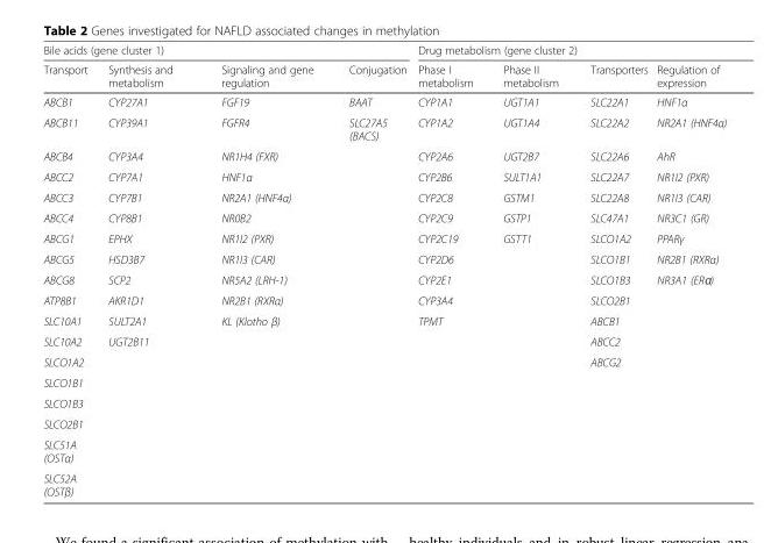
<table><thead><tr><td colspan="4">Bile acids (gene cluster 1)</td><td colspan="4">Drug metabolism (gene cluster 2)</td></tr><tr><td>Transport</td><td>Synthesis and metabolism</td><td>Signaling and gene regulation</td><td>Conjugation</td><td>Phase I metabolism</td><td>Phase II metabolism</td><td>Transporters</td><td>Regulation of expression</td></tr></thead><tbody><tr><td>ABCB1</td><td>CYP27A1</td><td>FGF19</td><td>BAAT</td><td>CYP1A1</td><td>UGT1A1</td><td>SLC22A1</td><td>HNF1α</td></tr><tr><td>ABCB11</td><td>CYP39A1</td><td>FGFR4</td><td>SLC27A5 (BACS)</td><td>CYP1A2</td><td>UGT1A4</td><td>SLC22A2</td><td>NR2A1 (HNF4α)</td></tr><tr><td>ABCB4</td><td>CYP3A4</td><td>NR1H4 (FXR)</td><td></td><td>CYP2A6</td><td>UGT2B7</td><td>SLC22A6</td><td>AhR</td></tr><tr><td>ABCC2</td><td>CYP7A1</td><td>HNF1α</td><td></td><td>CYP2B6</td><td>SULT1A1</td><td>SLC22A7</td><td>NR1I2 (PXR)</td></tr><tr><td>ABCC3</td><td>CYP7B1</td><td>NR2A1 (HNF4α)</td><td></td><td>CYP2C8</td><td>GSTM1</td><td>SLC22A8</td><td>NR1I3 (CAR)</td></tr><tr><td>ABCC4</td><td>CYP8B1</td><td>NR0B2</td><td></td><td>CYP2C9</td><td>GSTP1</td><td>SLC47A1</td><td>NR3C1 (GR)</td></tr><tr><td>ABCG1</td><td>EPHX</td><td>NR1I2 (PXR)</td><td></td><td>CYP2C19</td><td>GSTT1</td><td>SLCO1A2</td><td>PPARγ</td></tr><tr><td>ABCG5</td><td>HSD3B7</td><td>NR1I3 (CAR)</td><td></td><td>CYP2D6</td><td></td><td>SLCO1B1</td><td>NR2B1 (RXRα)</td></tr><tr><td>ABCG8</td><td>SCP2</td><td>NR5A2 (LRH-1)</td><td></td><td>CYP2E1</td><td></td><td>SLCO1B3</td><td>NR3A1 (ERɑ)</td></tr><tr><td>ATP8B1</td><td>AKR1D1</td><td>NR2B1 (RXRα)</td><td></td><td>CYP3A4</td><td></td><td>SLCO2B1</td><td></td></tr><tr><td>SLC10A1</td><td>SULT2A1</td><td>KL (Klotho β)</td><td></td><td>TPMT</td><td></td><td>ABCB1</td><td></td></tr><tr><td>SLC10A2</td><td>UGT2B11</td><td></td><td></td><td></td><td></td><td>ABCC2</td><td></td></tr><tr><td>SLCO1A2</td><td></td><td></td><td></td><td></td><td></td><td>ABCG2</td><td></td></tr><tr><td colspan="8">SLCO1B1</td></tr><tr><td colspan="8">SLCO1B3</td></tr><tr><td colspan="8">SLCO2B1</td></tr><tr><td colspan="8">SLC51A (OSTα)</td></tr><tr><td>SLC52A (OSTβ)</td><td></td><td></td><td></td><td></td><td></td><td></td><td></td></tr></tbody></table>